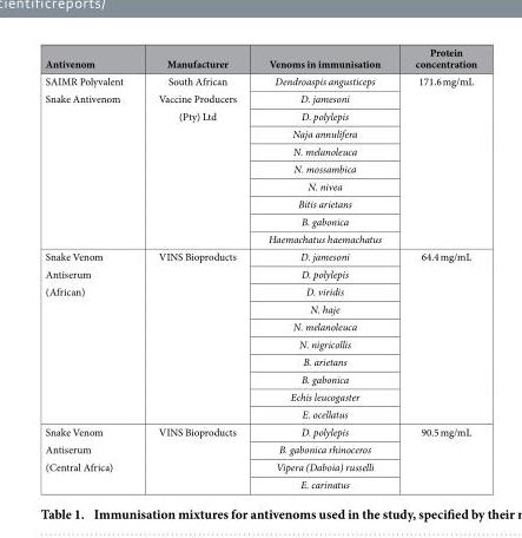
<table><thead><tr><td>Antivenom</td><td>Manufacturer</td><td>Venoms in immunisation</td><td>Protein concentration</td></tr></thead><tbody><tr><td rowspan="10">SAIMR Polyvalent Snake Antivenom</td><td rowspan="10">South African Vaccine Producers (Pty) Ltd</td><td>Dendroaspis angusticeps</td><td rowspan="10">171.6 mg/mL</td></tr><tr><td>D. jamesoni</td></tr><tr><td>D. polylepis</td></tr><tr><td>Naja annulifera</td></tr><tr><td>N. melanoleuca</td></tr><tr><td>N. mossambica</td></tr><tr><td>N. nivea</td></tr><tr><td>Bitis arietans</td></tr><tr><td>B. gabonica</td></tr><tr><td>Haemachatus haemachatus</td></tr><tr><td rowspan="10">Snake Venom Antiserum (African)</td><td rowspan="10">VINS Bioproducts</td><td>D. jamesoni</td><td rowspan="10">64.4 mg/mL</td></tr><tr><td>D. polylepis</td></tr><tr><td>D. viridis</td></tr><tr><td>N. haje</td></tr><tr><td>N. melanoleuca</td></tr><tr><td>N. nigricollis</td></tr><tr><td>B. arietans</td></tr><tr><td>B. gabonica</td></tr><tr><td>Echis leucogaster</td></tr><tr><td>E. ocellatus</td></tr><tr><td rowspan="4">Snake Venom Antiserum (Central Africa)</td><td rowspan="4">VINS Bioproducts</td><td>D. polylepis</td><td rowspan="4">90.5 mg/mL</td></tr><tr><td>B. gabonica rhinoceros</td></tr><tr><td>Vipera (Daboia) russelli</td></tr><tr><td>E. carinatus</td></tr></tbody></table>